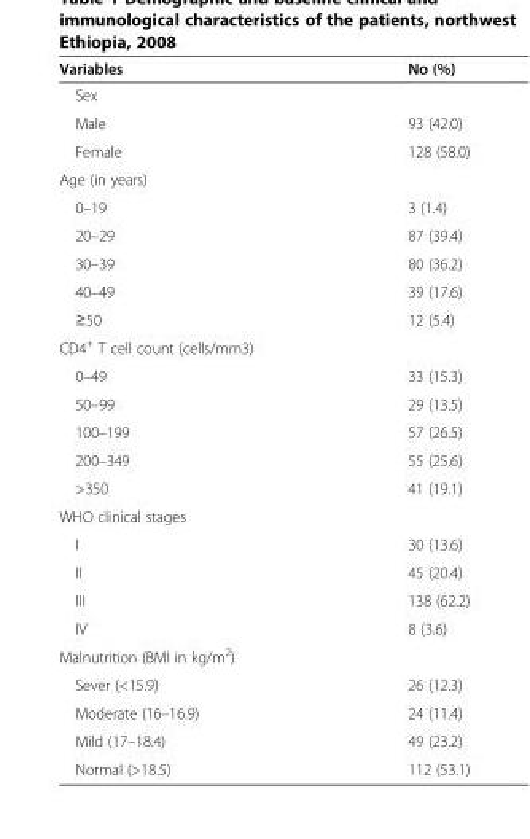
<table><thead><tr><td>Variables</td><td>No (%)</td></tr></thead><tbody><tr><td colspan="2">Sex</td></tr><tr><td>Male</td><td>93 (42.0)</td></tr><tr><td>Female</td><td>128 (58.0)</td></tr><tr><td colspan="2">Age (in years)</td></tr><tr><td>0–19</td><td>3 (1.4)</td></tr><tr><td>20–29</td><td>87 (39.4)</td></tr><tr><td>30–39</td><td>80 (36.2)</td></tr><tr><td>40–49</td><td>39 (17.6)</td></tr><tr><td>≥50</td><td>12 (5.4)</td></tr><tr><td colspan="2">CD4<sup>+</sup> T cell count (cells/mm3)</td></tr><tr><td>0–49</td><td>33 (15.3)</td></tr><tr><td>50–99</td><td>29 (13.5)</td></tr><tr><td>100–199</td><td>57 (26.5)</td></tr><tr><td>200–349</td><td>55 (25.6)</td></tr><tr><td>&gt;350</td><td>41 (19.1)</td></tr><tr><td colspan="2">WHO clinical stages</td></tr><tr><td>I</td><td>30 (13.6)</td></tr><tr><td>II</td><td>45 (20.4)</td></tr><tr><td>III</td><td>138 (62.2)</td></tr><tr><td>IV</td><td>8 (3.6)</td></tr><tr><td colspan="2">Malnutrition (BMI in kg/m<sup>2</sup>)</td></tr><tr><td>Sever (&lt;15.9)</td><td>26 (12.3)</td></tr><tr><td>Moderate (16–16.9)</td><td>24 (11.4)</td></tr><tr><td>Mild (17–18.4)</td><td>49 (23.2)</td></tr><tr><td>Normal (&gt;18.5)</td><td>112 (53.1)</td></tr></tbody></table>